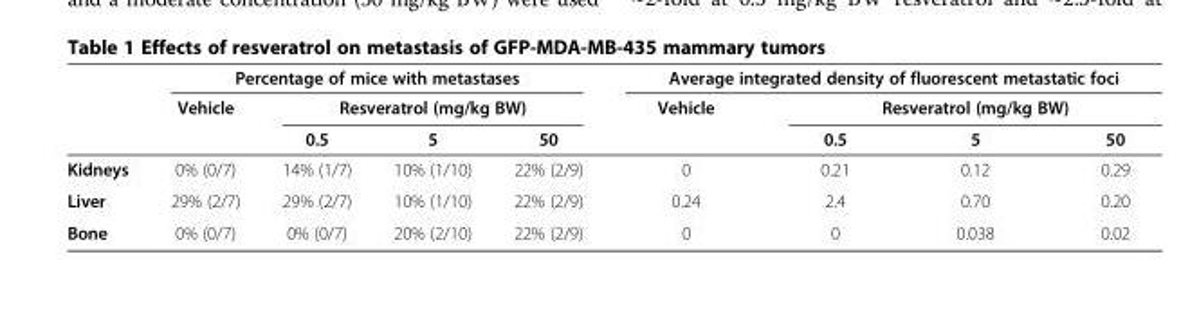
<table><thead><tr><td rowspan="3"></td><td colspan="4">Percentage of mice with metastases</td><td colspan="4">Average integrated density of fluorescent metastatic foci</td></tr><tr><td rowspan="2">Vehicle</td><td colspan="3">Resveratrol (mg/kg BW)</td><td rowspan="2">Vehicle</td><td colspan="3">Resveratrol (mg/kg BW)</td></tr><tr><td>0.5</td><td>5</td><td>50</td><td>0.5</td><td>5</td><td>50</td></tr></thead><tbody><tr><td>Kidneys</td><td>0% (0/7)</td><td>14% (1/7)</td><td>10% (1/10)</td><td>22% (2/9)</td><td>0</td><td>0.21</td><td>0.12</td><td>0.29</td></tr><tr><td>Liver</td><td>29% (2/7)</td><td>29% (2/7)</td><td>10% (1/10)</td><td>22% (2/9)</td><td>0.24</td><td>2.4</td><td>0.70</td><td>0.20</td></tr><tr><td>Bone</td><td>0% (0/7)</td><td>0% (0/7)</td><td>20% (2/10)</td><td>22% (2/9)</td><td>0</td><td>0</td><td>0.038</td><td>0.02</td></tr></tbody></table>